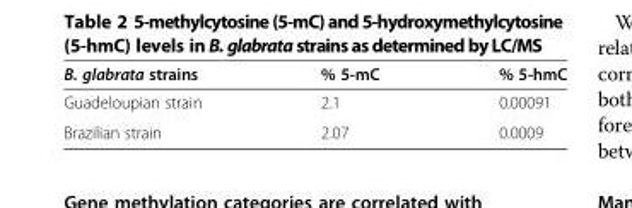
<table><thead><tr><td>B. glabrata strains</td><td>% 5-mC</td><td>% 5-hmC</td></tr></thead><tbody><tr><td>Guadeloupian strain</td><td>2.1</td><td>0.00091</td></tr><tr><td>Brazilian strain</td><td>2.07</td><td>0.0009</td></tr></tbody></table>